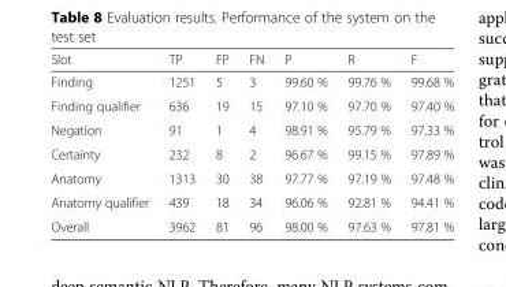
<table><thead><tr><td>Slot</td><td>TP</td><td>FP</td><td>FN</td><td>P</td><td>R</td><td>F</td></tr></thead><tbody><tr><td>Finding</td><td>1251</td><td>5</td><td>3</td><td>99.60 %</td><td>99.76 %</td><td>99.68 %</td></tr><tr><td>Finding qualifier</td><td>636</td><td>19</td><td>15</td><td>97.10 %</td><td>97.70 %</td><td>97.40 %</td></tr><tr><td>Negation</td><td>91</td><td>1</td><td>4</td><td>98.91 %</td><td>95.79 %</td><td>97.33 %</td></tr><tr><td>Certainty</td><td>232</td><td>8</td><td>2</td><td>96.67 %</td><td>99.15 %</td><td>97.89 %</td></tr><tr><td>Anatomy</td><td>1313</td><td>30</td><td>38</td><td>97.77 %</td><td>97.19 %</td><td>97.48 %</td></tr><tr><td>Anatomy qualifier</td><td>439</td><td>18</td><td>34</td><td>96.06 %</td><td>92.81 %</td><td>94.41 %</td></tr><tr><td>Overall</td><td>3962</td><td>81</td><td>96</td><td>98.00 %</td><td>97.63 %</td><td>97.81 %</td></tr></tbody></table>